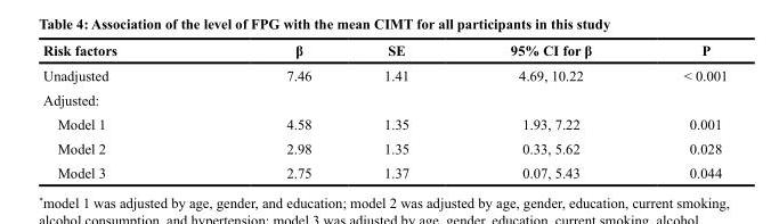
<table><thead><tr><td>Risk factors</td><td>β</td><td>SE</td><td>95% CI for β</td><td>P</td></tr></thead><tbody><tr><td>Unadjusted</td><td>7.46</td><td>1.41</td><td>4.69, 10.22</td><td>&lt; 0.001</td></tr><tr><td colspan="5">Adjusted:</td></tr><tr><td>Model 1</td><td>4.58</td><td>1.35</td><td>1.93, 7.22</td><td>0.001</td></tr><tr><td>Model 2</td><td>2.98</td><td>1.35</td><td>0.33, 5.62</td><td>0.028</td></tr><tr><td>Model 3</td><td>2.75</td><td>1.37</td><td>0.07, 5.43</td><td>0.044</td></tr></tbody></table>